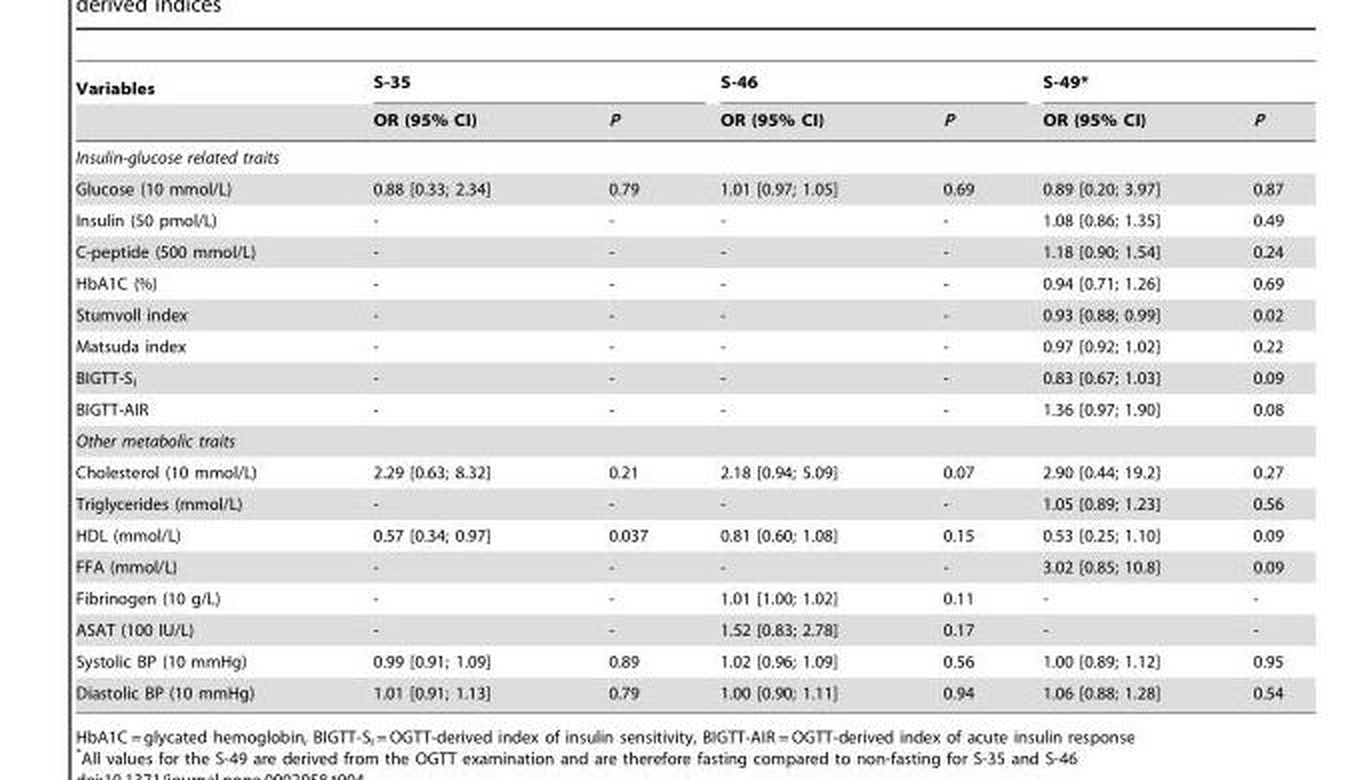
<table><thead><tr><td rowspan="2">Variables</td><td colspan="2">S-35</td><td colspan="2">S-46</td><td colspan="2">S-49*</td></tr><tr><td>OR (95% CI)</td><td>P</td><td>OR (95% CI)</td><td>P</td><td>OR (95% CI)</td><td>P</td></tr></thead><tbody><tr><td colspan="7">Insulin-glucose related traits</td></tr><tr><td>Glucose (10 mmol/L)</td><td>0.88 [0.33; 2.34]</td><td>0.79</td><td>1.01 [0.97; 1.05]</td><td>0.69</td><td>0.89 [0.20; 3.97]</td><td>0.87</td></tr><tr><td>Insulin (50 pmol/L)</td><td>-</td><td>-</td><td>-</td><td>-</td><td>1.08 [0.86; 1.35]</td><td>0.49</td></tr><tr><td>C-peptide (500 mmol/L)</td><td>-</td><td>-</td><td>-</td><td>-</td><td>1.18 [0.90; 1.54]</td><td>0.24</td></tr><tr><td>HbA1C (%)</td><td>-</td><td>-</td><td>-</td><td>-</td><td>0.94 [0.71; 1.26]</td><td>0.69</td></tr><tr><td>Stumvoll index</td><td>-</td><td>-</td><td>-</td><td>-</td><td>0.93 [0.88; 0.99]</td><td>0.02</td></tr><tr><td>Matsuda index</td><td>-</td><td>-</td><td>-</td><td>-</td><td>0.97 [0.92; 1.02]</td><td>0.22</td></tr><tr><td>BIGTT-S<sub>I</sub></td><td>-</td><td>-</td><td>-</td><td>-</td><td>0.83 [0.67; 1.03]</td><td>0.09</td></tr><tr><td>BIGTT-AIR</td><td>-</td><td>-</td><td>-</td><td>-</td><td>1.36 [0.97; 1.90]</td><td>0.08</td></tr><tr><td colspan="7">Other metabolic traits</td></tr><tr><td>Cholesterol (10 mmol/L)</td><td>2.29 [0.63; 8.32]</td><td>0.21</td><td>2.18 [0.94; 5.09]</td><td>0.07</td><td>2.90 [0.44; 19.2]</td><td>0.27</td></tr><tr><td>Triglycerides (mmol/L)</td><td>-</td><td>-</td><td>-</td><td>-</td><td>1.05 [0.89; 1.23]</td><td>0.56</td></tr><tr><td>HDL (mmol/L)</td><td>0.57 [0.34; 0.97]</td><td>0.037</td><td>0.81 [0.60; 1.08]</td><td>0.15</td><td>0.53 [0.25; 1.10]</td><td>0.09</td></tr><tr><td>FFA (mmol/L)</td><td>-</td><td>-</td><td>-</td><td>-</td><td>3.02 [0.85; 10.8]</td><td>0.09</td></tr><tr><td>Fibrinogen (10 g/L)</td><td>-</td><td>-</td><td>1.01 [1.00; 1.02]</td><td>0.11</td><td>-</td><td>-</td></tr><tr><td>ASAT (100 IU/L)</td><td>-</td><td>-</td><td>1.52 [0.83; 2.78]</td><td>0.17</td><td>-</td><td>-</td></tr><tr><td>Systolic BP (10 mmHg)</td><td>0.99 [0.91; 1.09]</td><td>0.89</td><td>1.02 [0.96; 1.09]</td><td>0.56</td><td>1.00 [0.89; 1.12]</td><td>0.95</td></tr><tr><td>Diastolic BP (10 mmHg)</td><td>1.01 [0.91; 1.13]</td><td>0.79</td><td>1.00 [0.90; 1.11]</td><td>0.94</td><td>1.06 [0.88; 1.28]</td><td>0.54</td></tr></tbody></table>